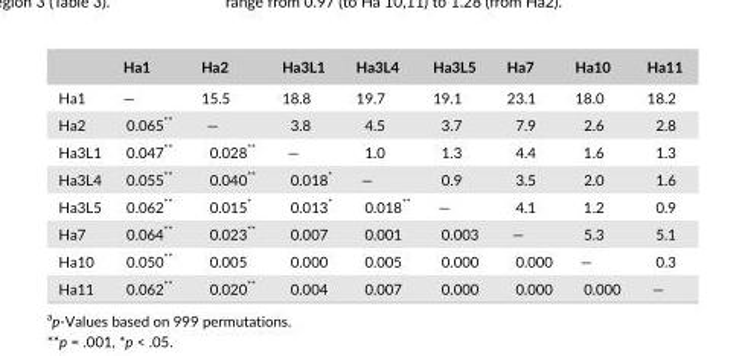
<table><thead><tr><td></td><td>Ha1</td><td>Ha2</td><td>Ha3L1</td><td>Ha3L4</td><td>Ha3L5</td><td>Ha7</td><td>Ha10</td><td>Ha11</td></tr></thead><tbody><tr><td>Ha1</td><td>—</td><td>15.5</td><td>18.8</td><td>19.7</td><td>19.1</td><td>23.1</td><td>18.0</td><td>18.2</td></tr><tr><td>Ha2</td><td>0.065**</td><td>—</td><td>3.8</td><td>4.5</td><td>3.7</td><td>7.9</td><td>2.6</td><td>2.8</td></tr><tr><td>Ha3L1</td><td>0.047**</td><td>0.028**</td><td>—</td><td>1.0</td><td>1.3</td><td>4.4</td><td>1.6</td><td>1.3</td></tr><tr><td>Ha3L4</td><td>0.055**</td><td>0.040**</td><td>0.018*</td><td>—</td><td>0.9</td><td>3.5</td><td>2.0</td><td>1.6</td></tr><tr><td>Ha3L5</td><td>0.062**</td><td>0.015*</td><td>0.013*</td><td>0.018**</td><td>—</td><td>4.1</td><td>1.2</td><td>0.9</td></tr><tr><td>Ha7</td><td>0.064**</td><td>0.023**</td><td>0.007</td><td>0.001</td><td>0.003</td><td>—</td><td>5.3</td><td>5.1</td></tr><tr><td>Ha10</td><td>0.050**</td><td>0.005</td><td>0.000</td><td>0.005</td><td>0.000</td><td>0.000</td><td>—</td><td>0.3</td></tr><tr><td>Ha11</td><td>0.062**</td><td>0.020**</td><td>0.004</td><td>0.007</td><td>0.000</td><td>0.000</td><td>0.000</td><td>—</td></tr></tbody></table>